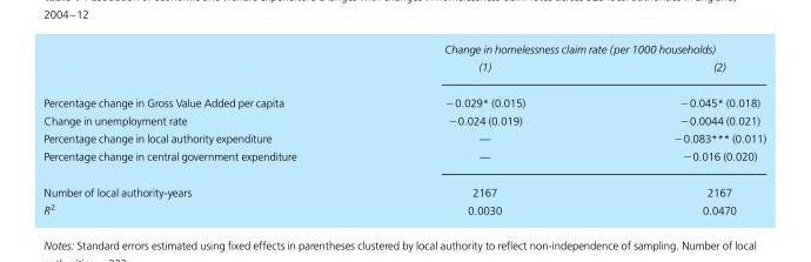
<table><thead><tr><td rowspan="2"></td><td colspan="2">Change in homelessness claim rate (per 1000 households)</td></tr><tr><td>(1)</td><td>(2)</td></tr></thead><tbody><tr><td>Percentage change in Gross Value Added per capita</td><td>−0.029* (0.015)</td><td>−0.045* (0.018)</td></tr><tr><td>Change in unemployment rate</td><td>−0.024 (0.019)</td><td>−0.0044 (0.021)</td></tr><tr><td>Percentage change in local authority expenditure</td><td>—</td><td>−0.083*** (0.011)</td></tr><tr><td>Percentage change in central government expenditure</td><td>—</td><td>−0.016 (0.020)</td></tr><tr><td>Number of local authority-years</td><td>2167</td><td>2167</td></tr><tr><td>R<sup>2</sup></td><td>0.0030</td><td>0.0470</td></tr></tbody></table>